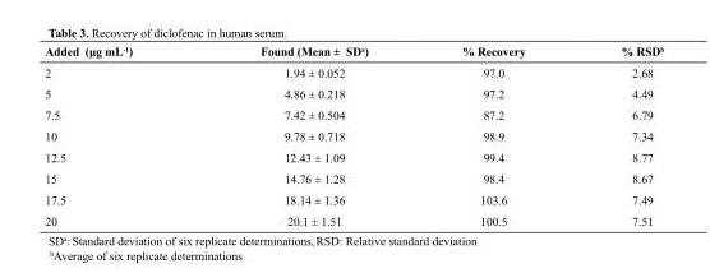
<table><thead><tr><td>Added (μg mL<sup>-1</sup>)</td><td>Found (Mean ± SDa)</td><td>% Recovery</td><td>% RSDb</td></tr></thead><tbody><tr><td>2</td><td>1.94 ± 0.052</td><td>97.0</td><td>2.68</td></tr><tr><td>5</td><td>4.86 ± 0.218</td><td>97.2</td><td>4.49</td></tr><tr><td>7.5</td><td>7.42 ± 0.504</td><td>87.2</td><td>6.79</td></tr><tr><td>10</td><td>9.78 ± 0.718</td><td>98.9</td><td>7.34</td></tr><tr><td>12.5</td><td>12.43 ± 1.09</td><td>99.4</td><td>8.77</td></tr><tr><td>15</td><td>14.76 ± 1.28</td><td>98.4</td><td>8.67</td></tr><tr><td>17.5</td><td>18.14 ± 1.36</td><td>103.6</td><td>7.49</td></tr><tr><td>20</td><td>20.1 ± 1.51</td><td>100.5</td><td>7.51</td></tr></tbody></table>